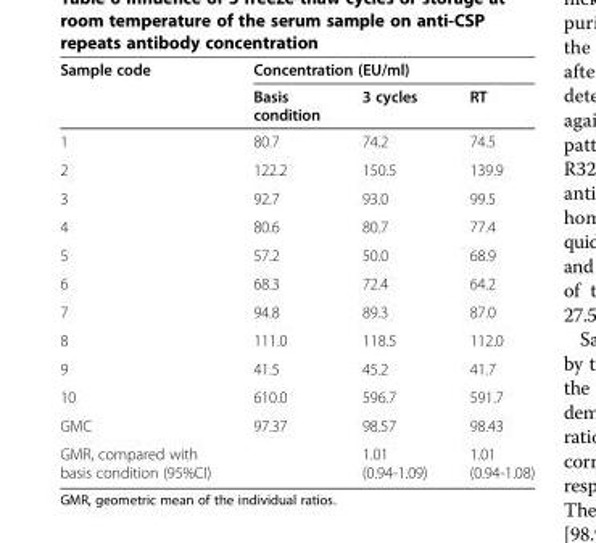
<table><thead><tr><td rowspan="2">Sample code</td><td colspan="3">Concentration (EU/ml)</td></tr><tr><td>Basis condition</td><td>3 cycles</td><td>RT</td></tr></thead><tbody><tr><td>1</td><td>80.7</td><td>74.2</td><td>74.5</td></tr><tr><td>2</td><td>122.2</td><td>150.5</td><td>139.9</td></tr><tr><td>3</td><td>92.7</td><td>93.0</td><td>99.5</td></tr><tr><td>4</td><td>80.6</td><td>80.7</td><td>77.4</td></tr><tr><td>5</td><td>57.2</td><td>50.0</td><td>68.9</td></tr><tr><td>6</td><td>68.3</td><td>72.4</td><td>64.2</td></tr><tr><td>7</td><td>94.8</td><td>89.3</td><td>87.0</td></tr><tr><td>8</td><td>111.0</td><td>118.5</td><td>112.0</td></tr><tr><td>9</td><td>41.5</td><td>45.2</td><td>41.7</td></tr><tr><td>10</td><td>610.0</td><td>596.7</td><td>591.7</td></tr><tr><td>GMC</td><td>97.37</td><td>98.57</td><td>98.43</td></tr><tr><td>GMR, compared with basis condition (95%CI)</td><td></td><td>1.01 (0.94-1.09)</td><td>1.01 (0.94-1.08)</td></tr></tbody></table>